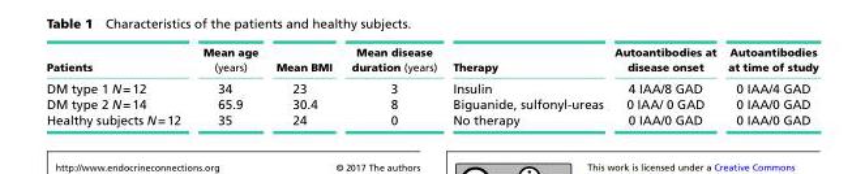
<table><thead><tr><td>Patients</td><td>Mean age (years)</td><td>Mean BMI</td><td>Mean disease duration (years)</td><td>Therapy</td><td>Autoantibodies at disease onset</td><td>Autoantibodies at time of study</td></tr></thead><tbody><tr><td>DM type 1 N = 12</td><td>34</td><td>23</td><td>3</td><td>Insulin</td><td>4 IAA/8 GAD</td><td>0 IAA/4 GAD</td></tr><tr><td>DM type 2 N = 14</td><td>65.9</td><td>30.4</td><td>8</td><td>Biguanide, sulfonyl-ureas</td><td>0 IAA/ 0 GAD</td><td>0 IAA/0 GAD</td></tr><tr><td>Healthy subjects N = 12</td><td>35</td><td>24</td><td>0</td><td>No therapy</td><td>0 IAA/0 GAD</td><td>0 IAA/0 GAD</td></tr></tbody></table>